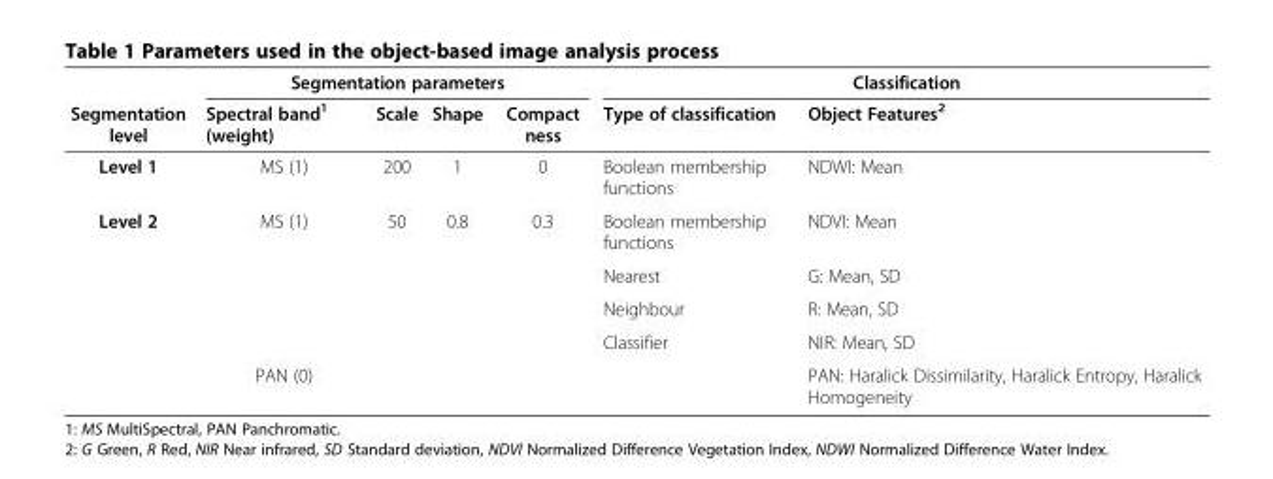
<table><thead><tr><td rowspan="2">Segmentation level</td><td colspan="4">Segmentation parameters</td><td colspan="2">Classification</td></tr><tr><td>Spectral band<sup>1</sup> (weight)</td><td>Scale</td><td>Shape</td><td>Compact ness</td><td>Type of classification</td><td>Object Features<sup>2</sup></td></tr></thead><tbody><tr><td>Level 1</td><td>MS (1)</td><td>200</td><td>1</td><td>0</td><td>Boolean membership functions</td><td>NDWI: Mean</td></tr><tr><td rowspan="5">Level 2</td><td>MS (1)</td><td>50</td><td>0.8</td><td>0.3</td><td>Boolean membership functions</td><td>NDVI: Mean</td></tr><tr><td></td><td></td><td></td><td></td><td>Nearest</td><td>G: Mean, SD</td></tr><tr><td></td><td></td><td></td><td></td><td>Neighbour</td><td>R: Mean, SD</td></tr><tr><td></td><td></td><td></td><td></td><td>Classifier</td><td>NIR: Mean, SD</td></tr><tr><td>PAN (0)</td><td></td><td></td><td></td><td></td><td>PAN: Haralick Dissimilarity, Haralick Entropy, Haralick Homogeneity</td></tr></tbody></table>